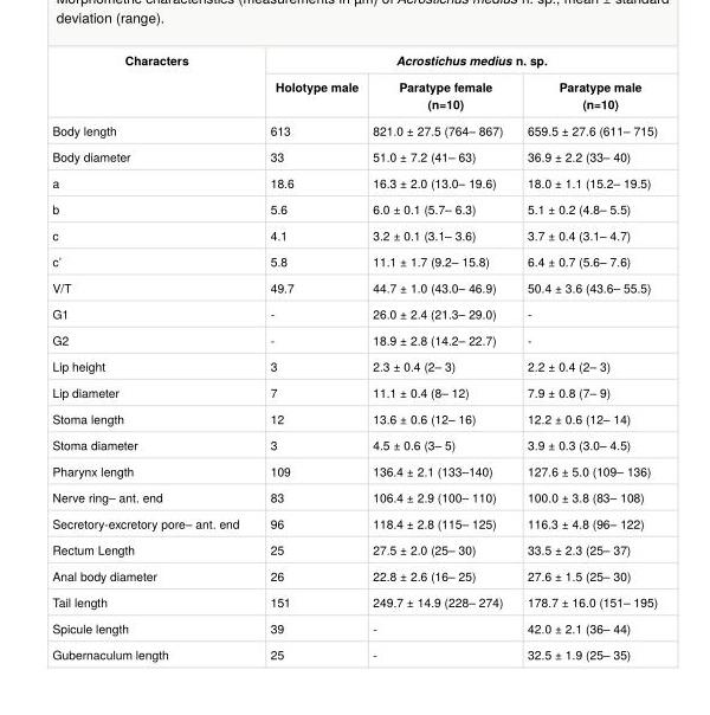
<table><tbody><tr><td rowspan="2">Characters</td><td colspan="3">Acrostichus medius n. sp.</td></tr><tr><td>Holotype male</td><td>Paratype female (n=10)</td><td>Paratype male (n=10)</td></tr><tr><td>Body length</td><td>613</td><td>821.0 ± 27.5 (764– 867)</td><td>659.5 ± 27.6 (611– 715)</td></tr><tr><td>Body diameter</td><td>33</td><td>51.0 ± 7.2 (41– 63)</td><td>36.9 ± 2.2 (33– 40)</td></tr><tr><td>a</td><td>18.6</td><td>16.3 ± 2.0 (13.0– 19.6)</td><td>18.0 ± 1.1 (15.2– 19.5)</td></tr><tr><td>b</td><td>5.6</td><td>6.0 ± 0.1 (5.7– 6.3)</td><td>5.1 ± 0.2 (4.8– 5.5)</td></tr><tr><td>c</td><td>4.1</td><td>3.2 ± 0.1 (3.1– 3.6)</td><td>3.7 ± 0.4 (3.1– 4.7)</td></tr><tr><td>c’</td><td>5.8</td><td>11.1 ± 1.7 (9.2– 15.8)</td><td>6.4 ± 0.7 (5.6– 7.6)</td></tr><tr><td>V/T</td><td>49.7</td><td>44.7 ± 1.0 (43.0– 46.9)</td><td>50.4 ± 3.6 (43.6– 55.5)</td></tr><tr><td>G1</td><td>-</td><td>26.0 ± 2.4 (21.3– 29.0)</td><td>-</td></tr><tr><td>G2</td><td>-</td><td>18.9 ± 2.8 (14.2– 22.7)</td><td>-</td></tr><tr><td>Lip height</td><td>3</td><td>2.3 ± 0.4 (2– 3)</td><td>2.2 ± 0.4 (2– 3)</td></tr><tr><td>Lip diameter</td><td>7</td><td>11.1 ± 0.4 (8– 12)</td><td>7.9 ± 0.8 (7– 9)</td></tr><tr><td>Stoma length</td><td>12</td><td>13.6 ± 0.6 (12– 16)</td><td>12.2 ± 0.6 (12– 14)</td></tr><tr><td>Stoma diameter</td><td>3</td><td>4.5 ± 0.6 (3– 5)</td><td>3.9 ± 0.3 (3.0– 4.5)</td></tr><tr><td>Pharynx length</td><td>109</td><td>136.4 ± 2.1 (133–140)</td><td>127.6 ± 5.0 (109– 136)</td></tr><tr><td>Nerve ring– ant. end</td><td>83</td><td>106.4 ± 2.9 (100– 110)</td><td>100.0 ± 3.8 (83– 108)</td></tr><tr><td>Secretory-excretory pore– ant. end</td><td>96</td><td>118.4 ± 2.8 (115– 125)</td><td>116.3 ± 4.8 (96– 122)</td></tr><tr><td>Rectum Length</td><td>25</td><td>27.5 ± 2.0 (25– 30)</td><td>33.5 ± 2.3 (25– 37)</td></tr><tr><td>Anal body diameter</td><td>26</td><td>22.8 ± 2.6 (16– 25)</td><td>27.6 ± 1.5 (25– 30)</td></tr><tr><td>Tail length</td><td>151</td><td>249.7 ± 14.9 (228– 274)</td><td>178.7 ± 16.0 (151– 195)</td></tr><tr><td>Spicule length</td><td>39</td><td>-</td><td>42.0 ± 2.1 (36– 44)</td></tr><tr><td>Gubernaculum length</td><td>25</td><td>-</td><td>32.5 ± 1.9 (25– 35)</td></tr></tbody></table>